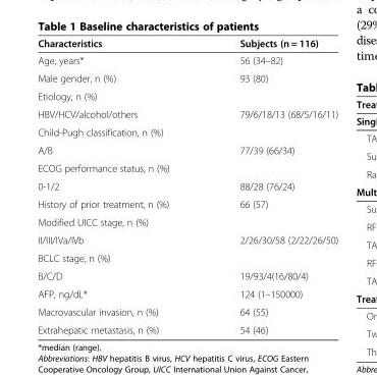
<table><thead><tr><td>Characteristics</td><td>Subjects (n = 116)</td></tr></thead><tbody><tr><td>Age, years*</td><td>56 (34–82)</td></tr><tr><td>Male gender, n (%)</td><td>93 (80)</td></tr><tr><td colspan="2">Etiology, n (%)</td></tr><tr><td>HBV/HCV/alcohol/others</td><td>79/6/18/13 (68/5/16/11)</td></tr><tr><td colspan="2">Child-Pugh classification, n (%)</td></tr><tr><td>A/B</td><td>77/39 (66/34)</td></tr><tr><td colspan="2">ECOG performance status, n (%)</td></tr><tr><td>0-1/2</td><td>88/28 (76/24)</td></tr><tr><td>History of prior treatment, n (%)</td><td>66 (57)</td></tr><tr><td colspan="2">Modified UICC stage, n (%)</td></tr><tr><td>II/III/IVa/IVb</td><td>2/26/30/58 (2/22/26/50)</td></tr><tr><td colspan="2">BCLC stage, n (%)</td></tr><tr><td>B/C/D</td><td>19/93/4(16/80/4)</td></tr><tr><td>AFP, ng/dL*</td><td>124 (1–150000)</td></tr><tr><td>Macrovascular invasion, n (%)</td><td>64 (55)</td></tr><tr><td>Extrahepatic metastasis, n (%)</td><td>54 (46)</td></tr></tbody></table>